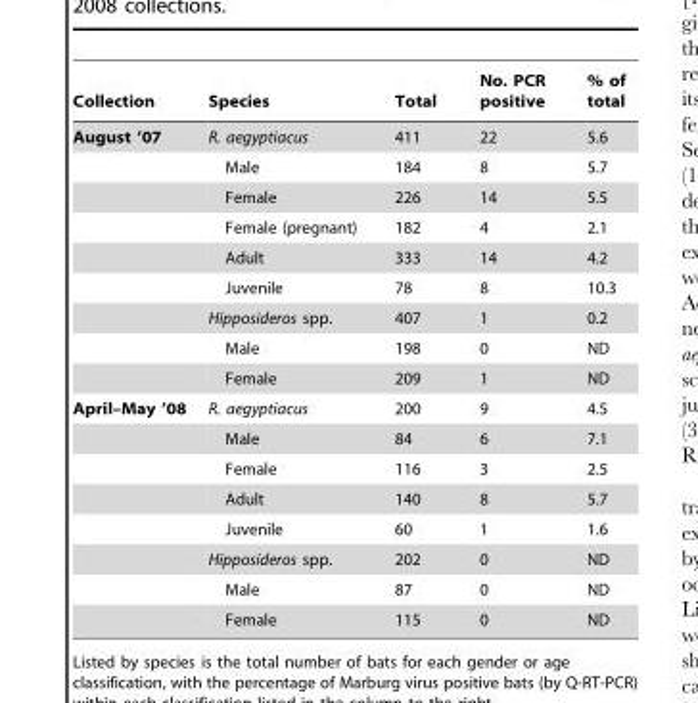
<table><thead><tr><td>Collection</td><td>Species</td><td>Total</td><td>No. PCR positive</td><td>% of total</td></tr></thead><tbody><tr><td rowspan="9">August ’07</td><td>R. aegyptiacus</td><td>411</td><td>22</td><td>5.6</td></tr><tr><td>Male</td><td>184</td><td>8</td><td>5.7</td></tr><tr><td>Female</td><td>226</td><td>14</td><td>5.5</td></tr><tr><td>Female (pregnant)</td><td>182</td><td>4</td><td>2.1</td></tr><tr><td>Adult</td><td>333</td><td>14</td><td>4.2</td></tr><tr><td>Juvenile</td><td>78</td><td>8</td><td>10.3</td></tr><tr><td>Hipposideros spp.</td><td>407</td><td>1</td><td>0.2</td></tr><tr><td>Male</td><td>198</td><td>0</td><td>ND</td></tr><tr><td>Female</td><td>209</td><td>1</td><td>ND</td></tr><tr><td rowspan="8">April–May ’08</td><td>R. aegyptiacus</td><td>200</td><td>9</td><td>4.5</td></tr><tr><td>Male</td><td>84</td><td>6</td><td>7.1</td></tr><tr><td>Female</td><td>116</td><td>3</td><td>2.5</td></tr><tr><td>Adult</td><td>140</td><td>8</td><td>5.7</td></tr><tr><td>Juvenile</td><td>60</td><td>1</td><td>1.6</td></tr><tr><td>Hipposideros spp.</td><td>202</td><td>0</td><td>ND</td></tr><tr><td>Male</td><td>87</td><td>0</td><td>ND</td></tr><tr><td>Female</td><td>115</td><td>0</td><td>ND</td></tr></tbody></table>